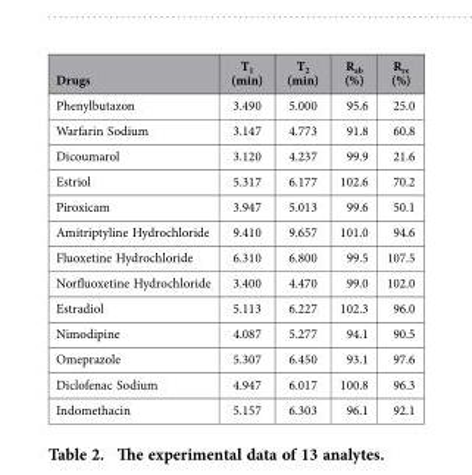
<table><thead><tr><td>Drugs</td><td>T<sub>1</sub> (min)</td><td>T<sub>2</sub> (min)</td><td>R<sub>ab</sub> (%)</td><td>R<sub>re</sub> (%)</td></tr></thead><tbody><tr><td>Phenylbutazon</td><td>3.490</td><td>5.000</td><td>95.6</td><td>25.0</td></tr><tr><td>Warfarin Sodium</td><td>3.147</td><td>4.773</td><td>91.8</td><td>60.8</td></tr><tr><td>Dicoumarol</td><td>3.120</td><td>4.237</td><td>99.9</td><td>21.6</td></tr><tr><td>Estriol</td><td>5.317</td><td>6.177</td><td>102.6</td><td>70.2</td></tr><tr><td>Piroxicam</td><td>3.947</td><td>5.013</td><td>99.6</td><td>50.1</td></tr><tr><td>Amitriptyline Hydrochloride</td><td>9.410</td><td>9.657</td><td>101.0</td><td>94.6</td></tr><tr><td>Fluoxetine Hydrochloride</td><td>6.310</td><td>6.800</td><td>99.5</td><td>107.5</td></tr><tr><td>Norfluoxetine Hydrochloride</td><td>3.400</td><td>4.470</td><td>99.0</td><td>102.0</td></tr><tr><td>Estradiol</td><td>5.113</td><td>6.227</td><td>102.3</td><td>96.0</td></tr><tr><td>Nimodipine</td><td>4.087</td><td>5.277</td><td>94.1</td><td>90.5</td></tr><tr><td>Omeprazole</td><td>5.307</td><td>6.450</td><td>93.1</td><td>97.6</td></tr><tr><td>Diclofenac Sodium</td><td>4.947</td><td>6.017</td><td>100.8</td><td>96.3</td></tr><tr><td>Indomethacin</td><td>5.157</td><td>6.303</td><td>96.1</td><td>92.1</td></tr></tbody></table>